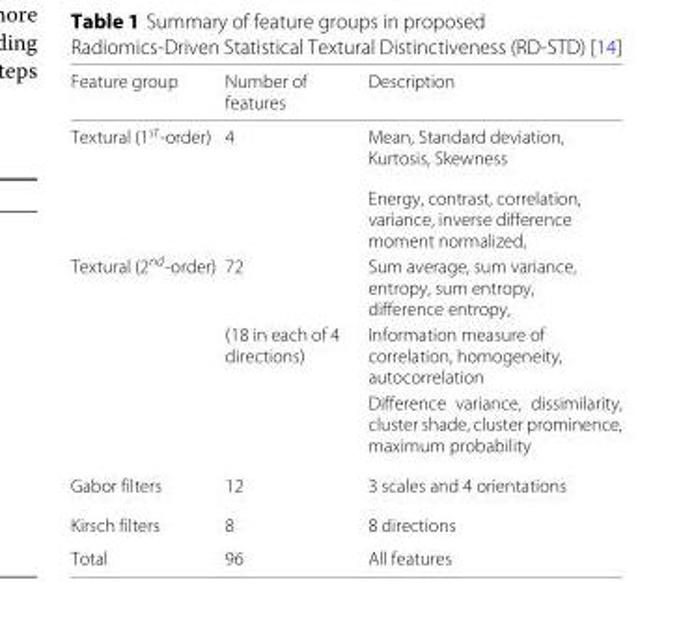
<table><thead><tr><td>Feature group</td><td>Number of features</td><td>Description</td></tr></thead><tbody><tr><td rowspan="2">Textural (1<sup>st</sup>-order)</td><td>4</td><td>Mean, Standard deviation, Kurtosis, Skewness</td></tr><tr><td></td><td>Energy, contrast, correlation, variance, inverse difference moment normalized,</td></tr><tr><td rowspan="3">Textural (2<sup>nd</sup>-order)</td><td>72</td><td>Sum average, sum variance, entropy, sum entropy, difference entropy,</td></tr><tr><td>(18 in each of 4 directions)</td><td>Information measure of correlation, homogeneity, autocorrelation</td></tr><tr><td></td><td>Difference variance, dissimilarity, cluster shade, cluster prominence, maximum probability</td></tr><tr><td>Gabor filters</td><td>12</td><td>3 scales and 4 orientations</td></tr><tr><td>Kirsch filters</td><td>8</td><td>8 directions</td></tr><tr><td>Total</td><td>96</td><td>All features</td></tr></tbody></table>